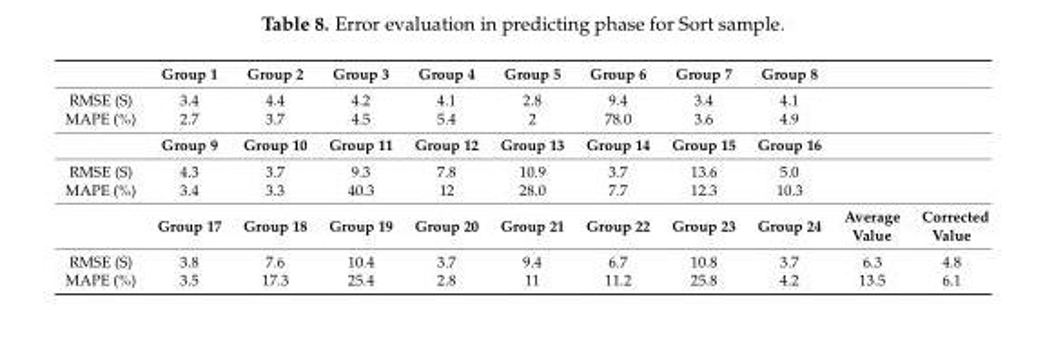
<table><thead><tr><td></td><td>Group 1</td><td>Group 2</td><td>Group 3</td><td>Group 4</td><td>Group 5</td><td>Group 6</td><td>Group 7</td><td>Group 8</td><td></td><td></td></tr></thead><tbody><tr><td>RMSE (S)</td><td>3.4</td><td>4.4</td><td>4.2</td><td>4.1</td><td>2.8</td><td>9.4</td><td>3.4</td><td>4.1</td><td></td><td></td></tr><tr><td rowspan="2">MAPE (%)</td><td>2.7</td><td>3.7</td><td>4.5</td><td>5.4</td><td>2</td><td>78.0</td><td>3.6</td><td>4.9</td><td></td><td></td></tr><tr><td>Group 9</td><td>Group 10</td><td>Group 11</td><td>Group 12</td><td>Group 13</td><td>Group 14</td><td>Group 15</td><td>Group 16</td><td></td><td></td></tr><tr><td>RMSE (S)</td><td>4.3</td><td>3.7</td><td>9.3</td><td>7.8</td><td>10.9</td><td>3.7</td><td>13.6</td><td>5.0</td><td></td><td></td></tr><tr><td rowspan="2">MAPE (%)</td><td>3.4</td><td>3.3</td><td>40.3</td><td>12</td><td>28.0</td><td>7.7</td><td>12.3</td><td>10.3</td><td></td><td></td></tr><tr><td>Group 17</td><td>Group 18</td><td>Group 19</td><td>Group 20</td><td>Group 21</td><td>Group 22</td><td>Group 23</td><td>Group 24</td><td>Average Value</td><td>Corrected Value</td></tr><tr><td>RMSE (S)</td><td>3.8</td><td>7.6</td><td>10.4</td><td>3.7</td><td>9.4</td><td>6.7</td><td>10.8</td><td>3.7</td><td>6.3</td><td>4.8</td></tr><tr><td>MAPE (%)</td><td>3.5</td><td>17.3</td><td>25.4</td><td>2.8</td><td>11</td><td>11.2</td><td>25.8</td><td>4.2</td><td>13.5</td><td>6.1</td></tr></tbody></table>